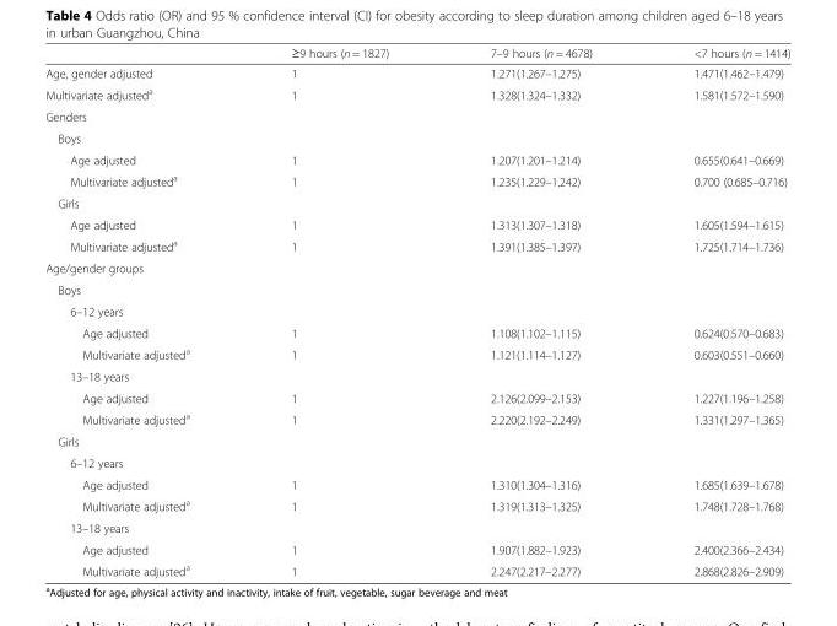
<table><thead><tr><td></td><td>≥9 hours (n = 1827)</td><td>7–9 hours (n = 4678)</td><td>&lt;7 hours (n = 1414)</td></tr></thead><tbody><tr><td>Age, gender adjusted</td><td>1</td><td>1.271(1.267–1.275)</td><td>1.471(1.462–1.479)</td></tr><tr><td>Multivariate adjusted<sup>a</sup></td><td>1</td><td>1.328(1.324–1.332)</td><td>1.581(1.572–1.590)</td></tr><tr><td colspan="4">Genders</td></tr><tr><td colspan="4">Boys</td></tr><tr><td>Age adjusted</td><td>1</td><td>1.207(1.201–1.214)</td><td>0.655(0.641–0.669)</td></tr><tr><td>Multivariate adjusted<sup>a</sup></td><td>1</td><td>1.235(1.229–1.242)</td><td>0.700 (0.685–0.716)</td></tr><tr><td colspan="4">Girls</td></tr><tr><td>Age adjusted</td><td>1</td><td>1.313(1.307–1.318)</td><td>1.605(1.594–1.615)</td></tr><tr><td>Multivariate adjusted<sup>a</sup></td><td>1</td><td>1.391(1.385–1.397)</td><td>1.725(1.714–1.736)</td></tr><tr><td colspan="4">Age/gender groups</td></tr><tr><td colspan="4">Boys</td></tr><tr><td colspan="4">6–12 years</td></tr><tr><td>Age adjusted</td><td>1</td><td>1.108(1.102–1.115)</td><td>0.624(0.570–0.683)</td></tr><tr><td>Multivariate adjusted<sup>a</sup></td><td>1</td><td>1.121(1.114–1.127)</td><td>0.603(0.551–0.660)</td></tr><tr><td colspan="4">13–18 years</td></tr><tr><td>Age adjusted</td><td>1</td><td>2.126(2.099–2.153)</td><td>1.227(1.196–1.258)</td></tr><tr><td>Multivariate adjusted<sup>a</sup></td><td>1</td><td>2.220(2.192–2.249)</td><td>1.331(1.297–1.365)</td></tr><tr><td colspan="4">Girls</td></tr><tr><td colspan="4">6–12 years</td></tr><tr><td>Age adjusted</td><td>1</td><td>1.310(1.304–1.316)</td><td>1.685(1.639–1.678)</td></tr><tr><td>Multivariate adjusted<sup>a</sup></td><td>1</td><td>1.319(1.313–1.325)</td><td>1.748(1.728–1.768)</td></tr><tr><td colspan="4">13–18 years</td></tr><tr><td>Age adjusted</td><td>1</td><td>1.907(1.882–1.923)</td><td>2.400(2.366–2.434)</td></tr><tr><td>Multivariate adjusted<sup>a</sup></td><td>1</td><td>2.247(2.217–2.277)</td><td>2.868(2.826–2.909)</td></tr></tbody></table>